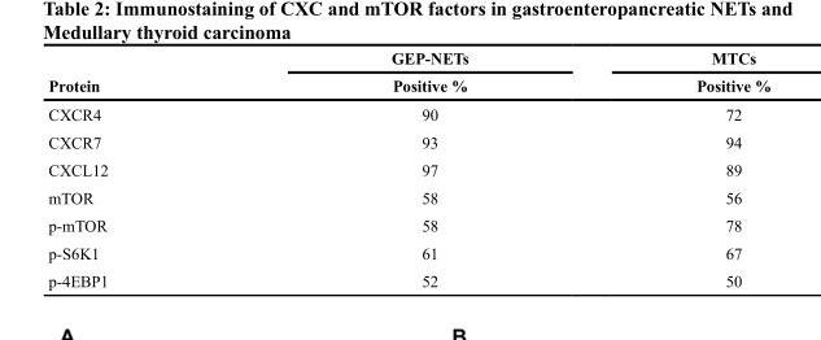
<table><thead><tr><td rowspan="2">Protein</td><td rowspan="2">GEP-NETs Positive %</td><td rowspan="2">MTCs Positive %</td></tr><tr></tr></thead><tbody><tr><td>CXCR4</td><td>90</td><td>72</td></tr><tr><td>CXCR7</td><td>93</td><td>94</td></tr><tr><td>CXCL12</td><td>97</td><td>89</td></tr><tr><td>mTOR</td><td>58</td><td>56</td></tr><tr><td>p-mTOR</td><td>58</td><td>78</td></tr><tr><td>p-S6K1</td><td>61</td><td>67</td></tr><tr><td>p-4EBP1</td><td>52</td><td>50</td></tr></tbody></table>